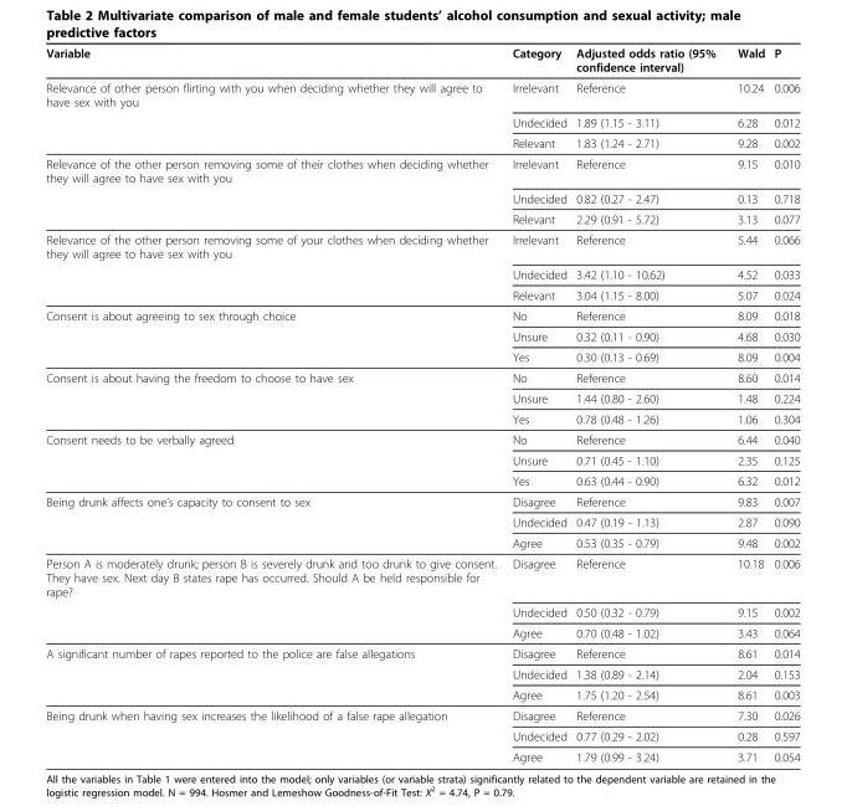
<table><thead><tr><td>Variable</td><td>Category</td><td>Adjusted odds ratio (95% confidence interval)</td><td>Wald</td><td>P</td></tr></thead><tbody><tr><td rowspan="3">Relevance of other person flirting with you when deciding whether they will agree to have sex with you</td><td>Irrelevant</td><td>Reference</td><td>10.24</td><td>0.006</td></tr><tr><td>Undecided</td><td>1.89 (1.15 - 3.11)</td><td>6.28</td><td>0.012</td></tr><tr><td>Relevant</td><td>1.83 (1.24 - 2.71)</td><td>9.28</td><td>0.002</td></tr><tr><td rowspan="3">Relevance of the other person removing some of their clothes when deciding whether they will agree to have sex with you</td><td>Irrelevant</td><td>Reference</td><td>9.15</td><td>0.010</td></tr><tr><td>Undecided</td><td>0.82 (0.27 - 2.47)</td><td>0.13</td><td>0.718</td></tr><tr><td>Relevant</td><td>2.29 (0.91 - 5.72)</td><td>3.13</td><td>0.077</td></tr><tr><td rowspan="3">Relevance of the other person removing some of your clothes when deciding whether they will agree to have sex with you</td><td>Irrelevant</td><td>Reference</td><td>5.44</td><td>0.066</td></tr><tr><td>Undecided</td><td>3.42 (1.10 - 10.62)</td><td>4.52</td><td>0.033</td></tr><tr><td>Relevant</td><td>3.04 (1.15 - 8.00)</td><td>5.07</td><td>0.024</td></tr><tr><td rowspan="3">Consent is about agreeing to sex through choice</td><td>No</td><td>Reference</td><td>8.09</td><td>0.018</td></tr><tr><td>Unsure</td><td>0.32 (0.11 - 0.90)</td><td>4.68</td><td>0.030</td></tr><tr><td>Yes</td><td>0.30 (0.13 - 0.69)</td><td>8.09</td><td>0.004</td></tr><tr><td rowspan="3">Consent is about having the freedom to choose to have sex</td><td>No</td><td>Reference</td><td>8.60</td><td>0.014</td></tr><tr><td>Unsure</td><td>1.44 (0.80 - 2.60)</td><td>1.48</td><td>0.224</td></tr><tr><td>Yes</td><td>0.78 (0.48 - 1.26)</td><td>1.06</td><td>0.304</td></tr><tr><td rowspan="3">Consent needs to be verbally agreed</td><td>No</td><td>Reference</td><td>6.44</td><td>0.040</td></tr><tr><td>Unsure</td><td>0.71 (0.45 - 1.10)</td><td>2.35</td><td>0.125</td></tr><tr><td>Yes</td><td>0.63 (0.44 - 0.90)</td><td>6.32</td><td>0.012</td></tr><tr><td rowspan="3">Being drunk affects one’s capacity to consent to sex</td><td>Disagree</td><td>Reference</td><td>9.83</td><td>0.007</td></tr><tr><td>Undecided</td><td>0.47 (0.19 - 1.13)</td><td>2.87</td><td>0.090</td></tr><tr><td>Agree</td><td>0.53 (0.35 - 0.79)</td><td>9.48</td><td>0.002</td></tr><tr><td rowspan="3">Person A is moderately drunk; person B is severely drunk and too drunk to give consent. They have sex. Next day B states rape has occurred. Should A be held responsible for rape?</td><td>Disagree</td><td>Reference</td><td>10.18</td><td>0.006</td></tr><tr><td>Undecided</td><td>0.50 (0.32 - 0.79)</td><td>9.15</td><td>0.002</td></tr><tr><td>Agree</td><td>0.70 (0.48 - 1.02)</td><td>3.43</td><td>0.064</td></tr><tr><td rowspan="3">A significant number of rapes reported to the police are false allegations</td><td>Disagree</td><td>Reference</td><td>8.61</td><td>0.014</td></tr><tr><td>Undecided</td><td>1.38 (0.89 - 2.14)</td><td>2.04</td><td>0.153</td></tr><tr><td>Agree</td><td>1.75 (1.20 - 2.54)</td><td>8.61</td><td>0.003</td></tr><tr><td rowspan="3">Being drunk when having sex increases the likelihood of a false rape allegation</td><td>Disagree</td><td>Reference</td><td>7.30</td><td>0.026</td></tr><tr><td>Undecided</td><td>0.77 (0.29 - 2.02)</td><td>0.28</td><td>0.597</td></tr><tr><td>Agree</td><td>1.79 (0.99 - 3.24)</td><td>3.71</td><td>0.054</td></tr></tbody></table>